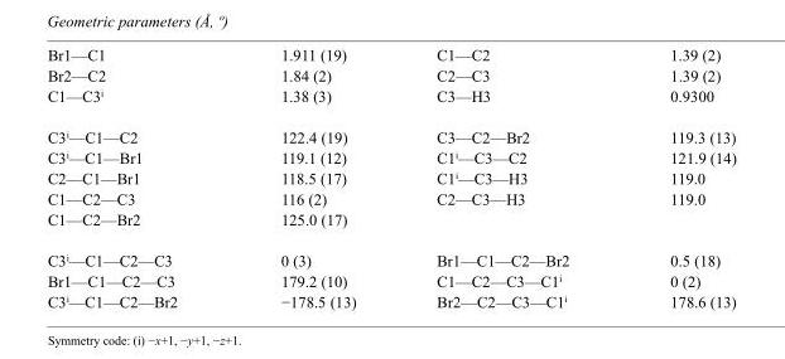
<table><tbody><tr><td>Br1—C1</td><td>1.911 (19)</td><td>C1—C2</td><td>1.39 (2)</td></tr><tr><td>Br2—C2</td><td>1.84 (2)</td><td>C2—C3</td><td>1.39 (2)</td></tr><tr><td>C1—C3<sup>i</sup></td><td>1.38 (3)</td><td>C3—H3</td><td>0.9300</td></tr><tr><td>C3<sup>i</sup>—C1—C2</td><td>122.4 (19)</td><td>C3—C2—Br2</td><td>119.3 (13)</td></tr><tr><td>C3<sup>i</sup>—C1—Br1</td><td>119.1 (12)</td><td>C1<sup>i</sup>—C3—C2</td><td>121.9 (14)</td></tr><tr><td>C2—C1—Br1</td><td>118.5 (17)</td><td>C1<sup>i</sup>—C3—H3</td><td>119.0</td></tr><tr><td>C1—C2—C3</td><td>116 (2)</td><td>C2—C3—H3</td><td>119.0</td></tr><tr><td>C1—C2—Br2</td><td>125.0 (17)</td><td></td><td></td></tr><tr><td>C3<sup>i</sup>—C1—C2—C3</td><td>0 (3)</td><td>Br1—C1—C2—Br2</td><td>0.5 (18)</td></tr><tr><td>Br1—C1—C2—C3</td><td>179.2 (10)</td><td>C1—C2—C3—C1<sup>i</sup></td><td>0 (2)</td></tr><tr><td>C3<sup>i</sup>—C1—C2—Br2</td><td>−178.5 (13)</td><td>Br2—C2—C3—C1<sup>i</sup></td><td>178.6 (13)</td></tr></tbody></table>